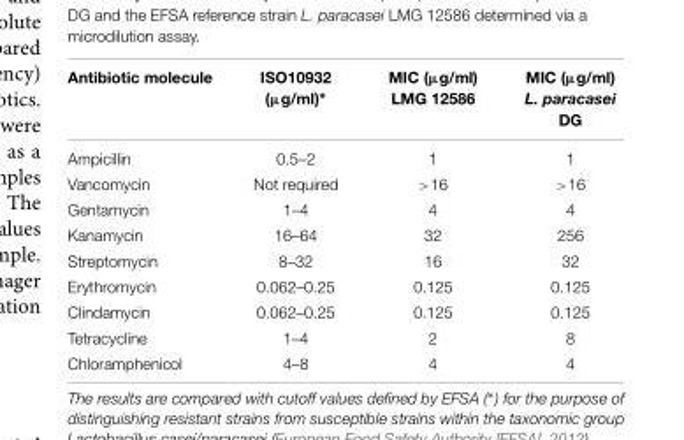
<table><thead><tr><td>Antibiotic molecule</td><td>ISO10932 (µg/ml)∗</td><td>MIC (µg/ml) LMG 12586</td><td>MIC (µg/ml) L. paracasei DG</td></tr></thead><tbody><tr><td>Ampicillin</td><td>0.5–2</td><td>1</td><td>1</td></tr><tr><td>Vancomycin</td><td>Not required</td><td>&gt;16</td><td>&gt;16</td></tr><tr><td>Gentamycin</td><td>1–4</td><td>4</td><td>4</td></tr><tr><td>Kanamycin</td><td>16–64</td><td>32</td><td>256</td></tr><tr><td>Streptomycin</td><td>8–32</td><td>16</td><td>32</td></tr><tr><td>Erythromycin</td><td>0.062–0.25</td><td>0.125</td><td>0.125</td></tr><tr><td>Clindamycin</td><td>0.062–0.25</td><td>0.125</td><td>0.125</td></tr><tr><td>Tetracycline</td><td>1–4</td><td>2</td><td>8</td></tr><tr><td>Chloramphenicol</td><td>4–8</td><td>4</td><td>4</td></tr></tbody></table>